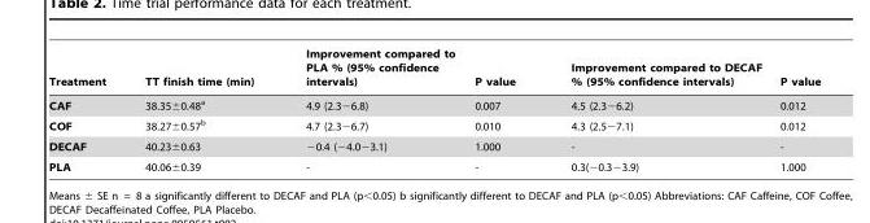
<table><thead><tr><td>Treatment</td><td>TT finish time (min)</td><td>Improvement compared to PLA % (95% confidence intervals)</td><td>P value</td><td>Improvement compared to DECAF % (95% confidence intervals)</td><td>P value</td></tr></thead><tbody><tr><td>CAF</td><td>38.35±0.48<sup>a</sup></td><td>4.9 (2.3−6.8)</td><td>0.007</td><td>4.5 (2.3−6.2)</td><td>0.012</td></tr><tr><td>COF</td><td>38.27±0.57<sup>b</sup></td><td>4.7 (2.3−6.7)</td><td>0.010</td><td>4.3 (2.5−7.1)</td><td>0.012</td></tr><tr><td>DECAF</td><td>40.23±0.63</td><td>−0.4 (−4.0−3.1)</td><td>1.000</td><td>-</td><td>-</td></tr><tr><td>PLA</td><td>40.06±0.39</td><td>-</td><td>-</td><td>0.3(−0.3−3.9)</td><td>1.000</td></tr></tbody></table>